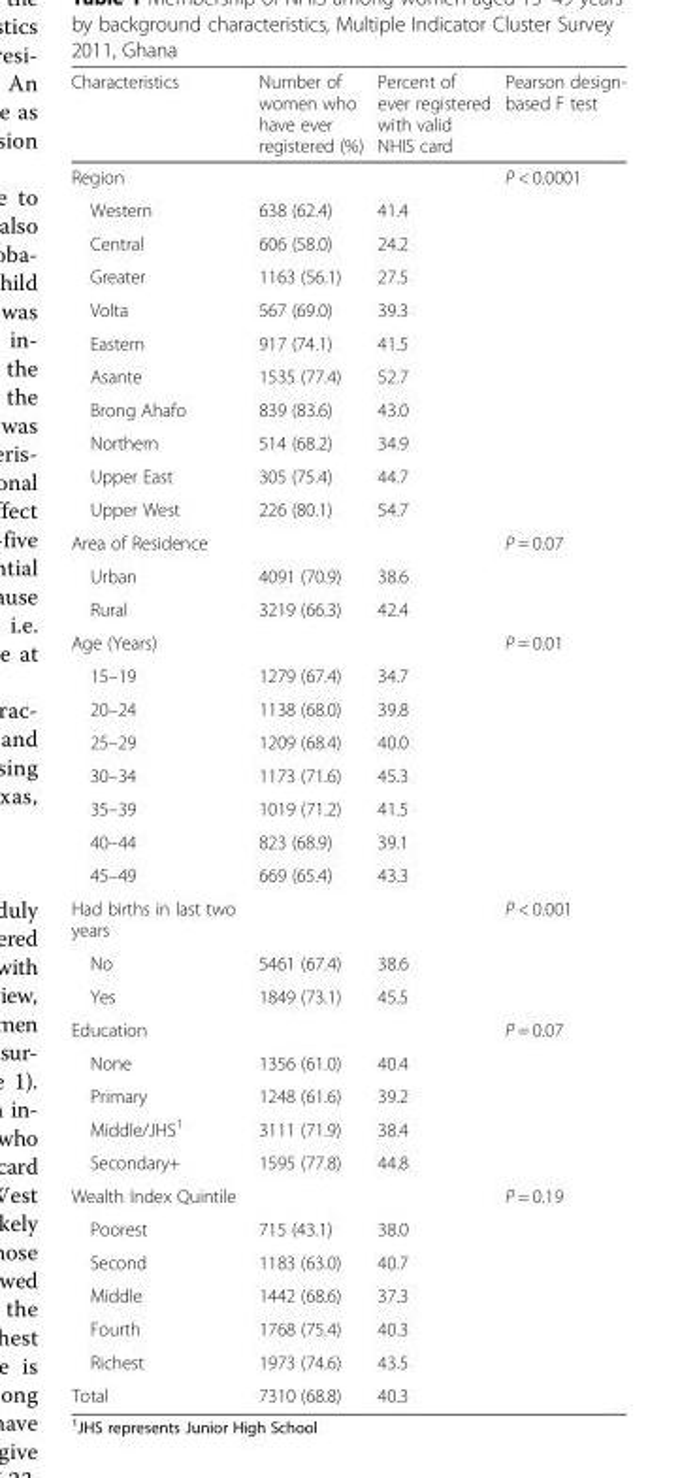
<table><thead><tr><td>Characteristics</td><td>Number of women who have ever registered (%)</td><td>Percent of ever registered with valid NHIS card</td><td>Pearson design- based F test</td></tr></thead><tbody><tr><td>Region</td><td></td><td></td><td>P &lt; 0.0001</td></tr><tr><td>Western</td><td>638 (62.4)</td><td>41.4</td><td></td></tr><tr><td>Central</td><td>606 (58.0)</td><td>24.2</td><td></td></tr><tr><td>Greater</td><td>1163 (56.1)</td><td>27.5</td><td></td></tr><tr><td>Volta</td><td>567 (69.0)</td><td>39.3</td><td></td></tr><tr><td>Eastern</td><td>917 (74.1)</td><td>41.5</td><td></td></tr><tr><td>Asante</td><td>1535 (77.4)</td><td>52.7</td><td></td></tr><tr><td>Brong Ahafo</td><td>839 (83.6)</td><td>43.0</td><td></td></tr><tr><td>Northern</td><td>514 (68.2)</td><td>34.9</td><td></td></tr><tr><td>Upper East</td><td>305 (75.4)</td><td>44.7</td><td></td></tr><tr><td>Upper West</td><td>226 (80.1)</td><td>54.7</td><td></td></tr><tr><td>Area of Residence</td><td></td><td></td><td>P = 0.07</td></tr><tr><td>Urban</td><td>4091 (70.9)</td><td>38.6</td><td></td></tr><tr><td>Rural</td><td>3219 (66.3)</td><td>42.4</td><td></td></tr><tr><td>Age (Years)</td><td></td><td></td><td>P = 0.01</td></tr><tr><td>15–19</td><td>1279 (67.4)</td><td>34.7</td><td></td></tr><tr><td>20–24</td><td>1138 (68.0)</td><td>39.8</td><td></td></tr><tr><td>25–29</td><td>1209 (68.4)</td><td>40.0</td><td></td></tr><tr><td>30–34</td><td>1173 (71.6)</td><td>45.3</td><td></td></tr><tr><td>35–39</td><td>1019 (71.2)</td><td>41.5</td><td></td></tr><tr><td>40–44</td><td>823 (68.9)</td><td>39.1</td><td></td></tr><tr><td>45–49</td><td>669 (65.4)</td><td>43.3</td><td></td></tr><tr><td>Had births in last two years</td><td></td><td></td><td>P &lt; 0.001</td></tr><tr><td>No</td><td>5461 (67.4)</td><td>38.6</td><td></td></tr><tr><td>Yes</td><td>1849 (73.1)</td><td>45.5</td><td></td></tr><tr><td>Education</td><td></td><td></td><td>P = 0.07</td></tr><tr><td>None</td><td>1356 (61.0)</td><td>40.4</td><td></td></tr><tr><td>Primary</td><td>1248 (61.6)</td><td>39.2</td><td></td></tr><tr><td>Middle/JHS<sup>1</sup></td><td>3111 (71.9)</td><td>38.4</td><td></td></tr><tr><td>Secondary+</td><td>1595 (77.8)</td><td>44.8</td><td></td></tr><tr><td>Wealth Index Quintile</td><td></td><td></td><td>P = 0.19</td></tr><tr><td>Poorest</td><td>715 (43.1)</td><td>38.0</td><td></td></tr><tr><td>Second</td><td>1183 (63.0)</td><td>40.7</td><td></td></tr><tr><td>Middle</td><td>1442 (68.6)</td><td>37.3</td><td></td></tr><tr><td>Fourth</td><td>1768 (75.4)</td><td>40.3</td><td></td></tr><tr><td>Richest</td><td>1973 (74.6)</td><td>43.5</td><td></td></tr><tr><td>Total</td><td>7310 (68.8)</td><td>40.3</td><td></td></tr></tbody></table>